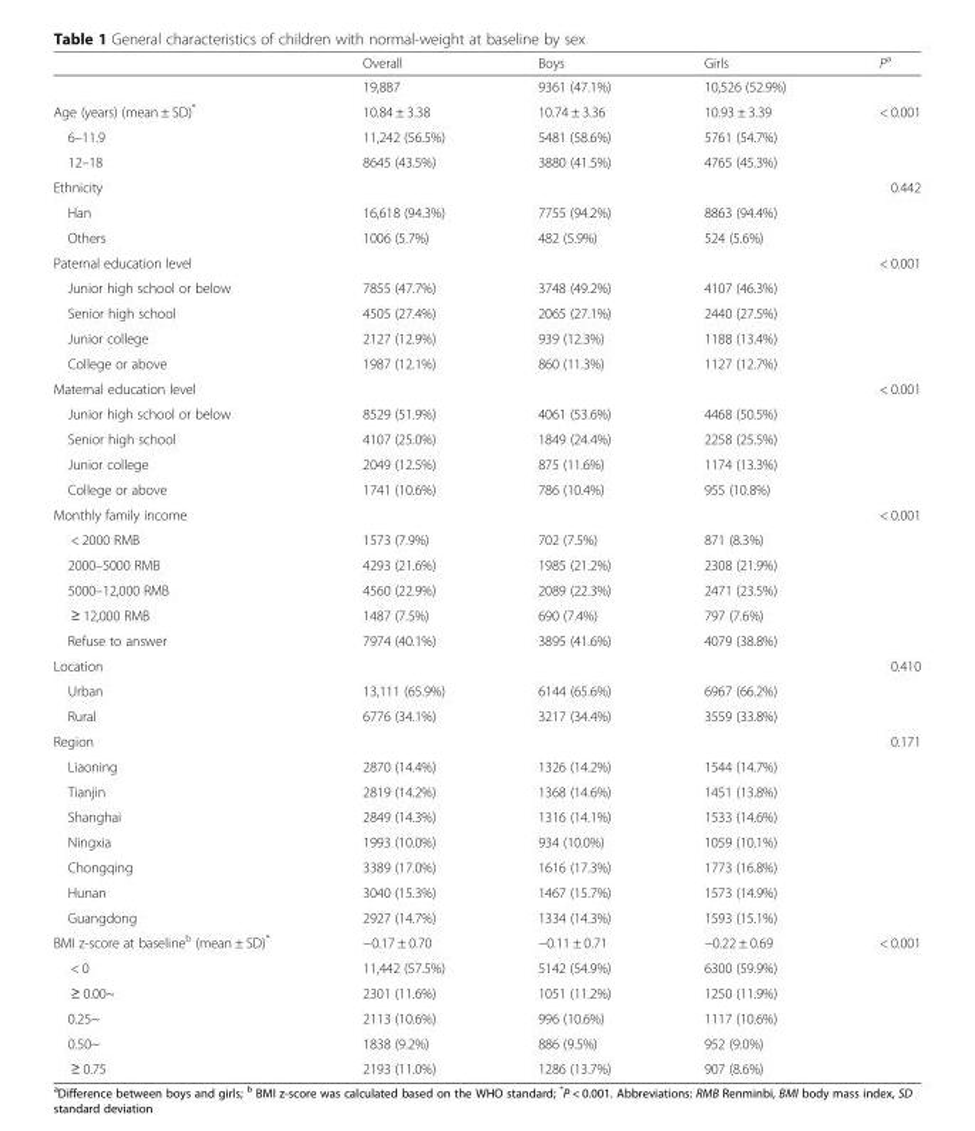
<table><thead><tr><td></td><td>Overall</td><td>Boys</td><td>Girls</td><td>P<sup>a</sup></td></tr></thead><tbody><tr><td></td><td>19,887</td><td>9361 (47.1%)</td><td>10,526 (52.9%)</td><td></td></tr><tr><td>Age (years) (mean ± SD)*</td><td>10.84 ± 3.38</td><td>10.74 ± 3.36</td><td>10.93 ± 3.39</td><td>&lt; 0.001</td></tr><tr><td>6–11.9</td><td>11,242 (56.5%)</td><td>5481 (58.6%)</td><td>5761 (54.7%)</td><td></td></tr><tr><td>12–18</td><td>8645 (43.5%)</td><td>3880 (41.5%)</td><td>4765 (45.3%)</td><td></td></tr><tr><td>Ethnicity</td><td></td><td></td><td></td><td>0.442</td></tr><tr><td>Han</td><td>16,618 (94.3%)</td><td>7755 (94.2%)</td><td>8863 (94.4%)</td><td></td></tr><tr><td>Others</td><td>1006 (5.7%)</td><td>482 (5.9%)</td><td>524 (5.6%)</td><td></td></tr><tr><td>Paternal education level</td><td></td><td></td><td></td><td>&lt; 0.001</td></tr><tr><td>Junior high school or below</td><td>7855 (47.7%)</td><td>3748 (49.2%)</td><td>4107 (46.3%)</td><td></td></tr><tr><td>Senior high school</td><td>4505 (27.4%)</td><td>2065 (27.1%)</td><td>2440 (27.5%)</td><td></td></tr><tr><td>Junior college</td><td>2127 (12.9%)</td><td>939 (12.3%)</td><td>1188 (13.4%)</td><td></td></tr><tr><td>College or above</td><td>1987 (12.1%)</td><td>860 (11.3%)</td><td>1127 (12.7%)</td><td></td></tr><tr><td>Maternal education level</td><td></td><td></td><td></td><td>&lt; 0.001</td></tr><tr><td>Junior high school or below</td><td>8529 (51.9%)</td><td>4061 (53.6%)</td><td>4468 (50.5%)</td><td></td></tr><tr><td>Senior high school</td><td>4107 (25.0%)</td><td>1849 (24.4%)</td><td>2258 (25.5%)</td><td></td></tr><tr><td>Junior college</td><td>2049 (12.5%)</td><td>875 (11.6%)</td><td>1174 (13.3%)</td><td></td></tr><tr><td>College or above</td><td>1741 (10.6%)</td><td>786 (10.4%)</td><td>955 (10.8%)</td><td></td></tr><tr><td>Monthly family income</td><td></td><td></td><td></td><td>&lt; 0.001</td></tr><tr><td>&lt; 2000 RMB</td><td>1573 (7.9%)</td><td>702 (7.5%)</td><td>871 (8.3%)</td><td></td></tr><tr><td>2000–5000 RMB</td><td>4293 (21.6%)</td><td>1985 (21.2%)</td><td>2308 (21.9%)</td><td></td></tr><tr><td>5000–12,000 RMB</td><td>4560 (22.9%)</td><td>2089 (22.3%)</td><td>2471 (23.5%)</td><td></td></tr><tr><td>≥ 12,000 RMB</td><td>1487 (7.5%)</td><td>690 (7.4%)</td><td>797 (7.6%)</td><td></td></tr><tr><td>Refuse to answer</td><td>7974 (40.1%)</td><td>3895 (41.6%)</td><td>4079 (38.8%)</td><td></td></tr><tr><td>Location</td><td></td><td></td><td></td><td>0.410</td></tr><tr><td>Urban</td><td>13,111 (65.9%)</td><td>6144 (65.6%)</td><td>6967 (66.2%)</td><td></td></tr><tr><td>Rural</td><td>6776 (34.1%)</td><td>3217 (34.4%)</td><td>3559 (33.8%)</td><td></td></tr><tr><td>Region</td><td></td><td></td><td></td><td>0.171</td></tr><tr><td>Liaoning</td><td>2870 (14.4%)</td><td>1326 (14.2%)</td><td>1544 (14.7%)</td><td></td></tr><tr><td>Tianjin</td><td>2819 (14.2%)</td><td>1368 (14.6%)</td><td>1451 (13.8%)</td><td></td></tr><tr><td>Shanghai</td><td>2849 (14.3%)</td><td>1316 (14.1%)</td><td>1533 (14.6%)</td><td></td></tr><tr><td>Ningxia</td><td>1993 (10.0%)</td><td>934 (10.0%)</td><td>1059 (10.1%)</td><td></td></tr><tr><td>Chongqing</td><td>3389 (17.0%)</td><td>1616 (17.3%)</td><td>1773 (16.8%)</td><td></td></tr><tr><td>Hunan</td><td>3040 (15.3%)</td><td>1467 (15.7%)</td><td>1573 (14.9%)</td><td></td></tr><tr><td>Guangdong</td><td>2927 (14.7%)</td><td>1334 (14.3%)</td><td>1593 (15.1%)</td><td></td></tr><tr><td>BMI z-score at baseline<sup>b</sup> (mean ± SD)*</td><td>−0.17 ± 0.70</td><td>−0.11 ± 0.71</td><td>−0.22 ± 0.69</td><td>&lt; 0.001</td></tr><tr><td>&lt; 0</td><td>11,442 (57.5%)</td><td>5142 (54.9%)</td><td>6300 (59.9%)</td><td></td></tr><tr><td>≥ 0.00~</td><td>2301 (11.6%)</td><td>1051 (11.2%)</td><td>1250 (11.9%)</td><td></td></tr><tr><td>0.25~</td><td>2113 (10.6%)</td><td>996 (10.6%)</td><td>1117 (10.6%)</td><td></td></tr><tr><td>0.50~</td><td>1838 (9.2%)</td><td>886 (9.5%)</td><td>952 (9.0%)</td><td></td></tr><tr><td>≥ 0.75</td><td>2193 (11.0%)</td><td>1286 (13.7%)</td><td>907 (8.6%)</td><td></td></tr></tbody></table>